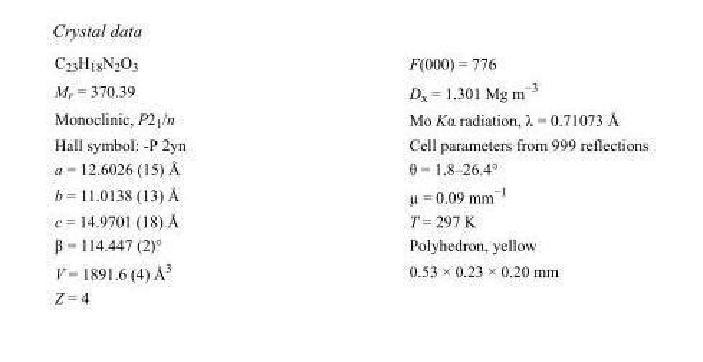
<table><tbody><tr><td>C<sub>23</sub>H<sub>18</sub>N<sub>2</sub>O<sub>3</sub></td><td>F(000) = 776</td></tr><tr><td>M<sub>r</sub> = 370.39</td><td>D<sub>x</sub> = 1.301 Mg m<sup>−3</sup></td></tr><tr><td>Monoclinic, P2<sub>1</sub>/n</td><td>Mo Kα radiation, λ = 0.71073 Å</td></tr><tr><td>Hall symbol: -P 2yn</td><td>Cell parameters from 999 reflections</td></tr><tr><td>a = 12.6026 (15) Å</td><td>θ = 1.8–26.4°</td></tr><tr><td>b = 11.0138 (13) Å</td><td>µ = 0.09 mm<sup>−1</sup></td></tr><tr><td>c = 14.9701 (18) Å</td><td>T = 297 K</td></tr><tr><td>β = 114.447 (2)°</td><td>Polyhedron, yellow</td></tr><tr><td>V = 1891.6 (4) Å<sup>3</sup></td><td>0.53 × 0.23 × 0.20 mm</td></tr><tr><td>Z = 4</td><td></td></tr></tbody></table>